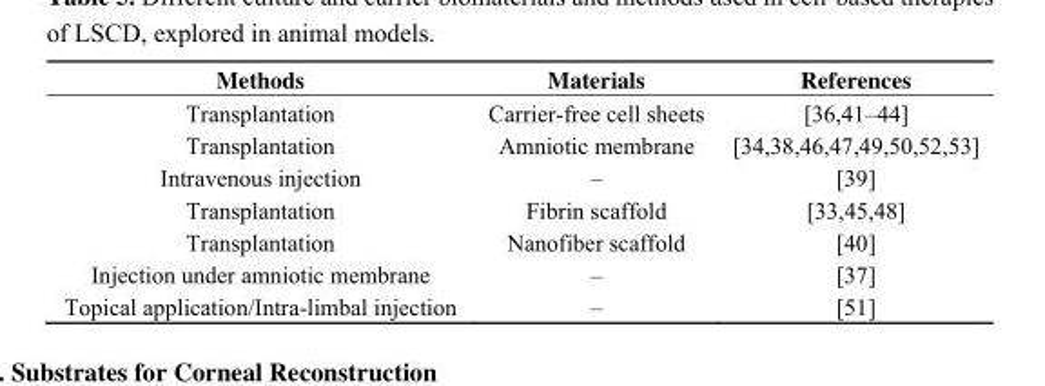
<table><thead><tr><td>Methods</td><td>Materials</td><td>References</td></tr></thead><tbody><tr><td>Transplantation</td><td>Carrier-free cell sheets</td><td>[36,41–44]</td></tr><tr><td>Transplantation</td><td>Amniotic membrane</td><td>[34,38,46,47,49,50,52,53]</td></tr><tr><td>Intravenous injection</td><td>–</td><td>[39]</td></tr><tr><td>Transplantation</td><td>Fibrin scaffold</td><td>[33,45,48]</td></tr><tr><td>Transplantation</td><td>Nanofiber scaffold</td><td>[40]</td></tr><tr><td>Injection under amniotic membrane</td><td>–</td><td>[37]</td></tr><tr><td>Topical application/Intra-limbal injection</td><td>–</td><td>[51]</td></tr></tbody></table>